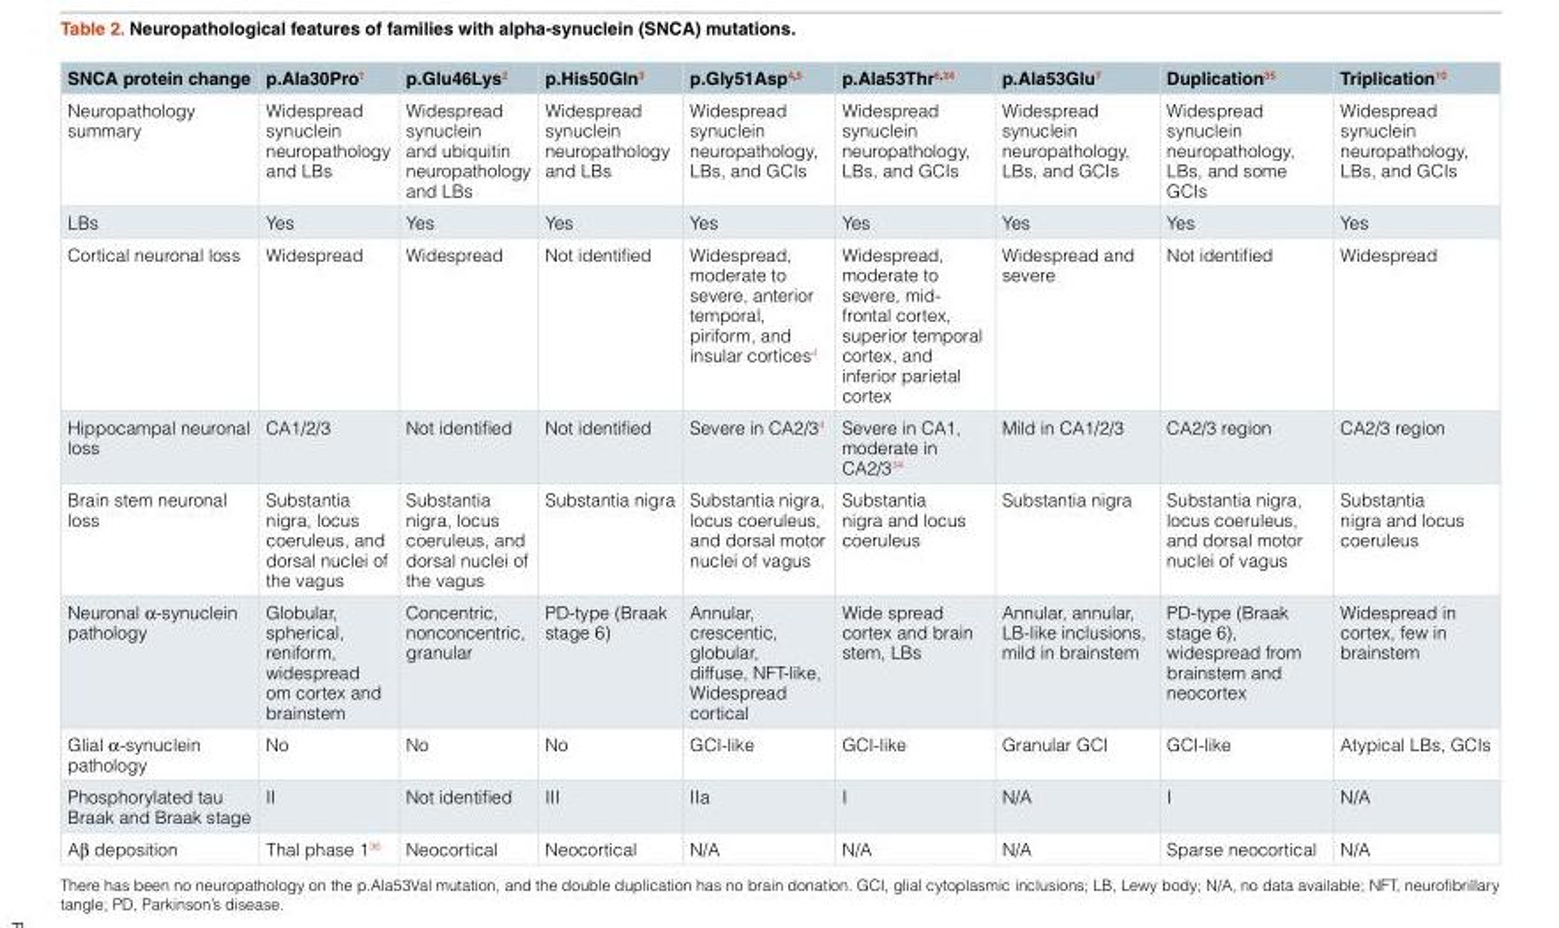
<table><thead><tr><td>SNCA protein change</td><td>p.Ala30Pro<sup>1</sup></td><td>p.Glu46Lys<sup>2</sup></td><td>p.His50Gln<sup>3</sup></td><td>p.Gly51Asp<sup>4,5</sup></td><td>p.Ala53Thr<sup>6,34</sup></td><td>p.Ala53Glu<sup>7</sup></td><td>Duplication<sup>35</sup></td><td>Triplication<sup>10</sup></td></tr></thead><tbody><tr><td>Neuropathology summary</td><td>Widespread synuclein neuropathology and LBs</td><td>Widespread synuclein and ubiquitin neuropathology and LBs</td><td>Widespread synuclein neuropathology and LBs</td><td>Widespread synuclein neuropathology, LBs, and GCIs</td><td>Widespread synuclein neuropathology, LBs, and GCIs</td><td>Widespread synuclein neuropathology, LBs, and GCIs</td><td>Widespread synuclein neuropathology, LBs, and some GCIs</td><td>Widespread synuclein neuropathology, LBs, and GCIs</td></tr><tr><td>LBs</td><td>Yes</td><td>Yes</td><td>Yes</td><td>Yes</td><td>Yes</td><td>Yes</td><td>Yes</td><td>Yes</td></tr><tr><td>Cortical neuronal loss</td><td>Widespread</td><td>Widespread</td><td>Not identified</td><td>Widespread, moderate to severe, anterior temporal, piriform, and insular cortices<sup>4</sup></td><td>Widespread, moderate to severe, mid- frontal cortex, superior temporal cortex, and inferior parietal cortex</td><td>Widespread and severe</td><td>Not identified</td><td>Widespread</td></tr><tr><td>Hippocampal neuronal loss</td><td>CA1/2/3</td><td>Not identified</td><td>Not identified</td><td>Severe in CA2/3<sup>4</sup></td><td>Severe in CA1, moderate in CA2/3<sup>34</sup></td><td>Mild in CA1/2/3</td><td>CA2/3 region</td><td>CA2/3 region</td></tr><tr><td>Brain stem neuronal loss</td><td>Substantia nigra, locus coeruleus, and dorsal nuclei of the vagus</td><td>Substantia nigra, locus coeruleus, and dorsal nuclei of the vagus</td><td>Substantia nigra</td><td>Substantia nigra, locus coeruleus, and dorsal motor nuclei of vagus</td><td>Substantia nigra and locus coeruleus</td><td>Substantia nigra</td><td>Substantia nigra, locus coeruleus, and dorsal motor nuclei of vagus</td><td>Substantia nigra and locus coeruleus</td></tr><tr><td>Neuronal α-synuclein pathology</td><td>Globular, spherical, reniform, widespread om cortex and brainstem</td><td>Concentric, nonconcentric, granular</td><td>PD-type (Braak stage 6)</td><td>Annular, crescentic, globular, diffuse, NFT-like, Widespread cortical</td><td>Wide spread cortex and brain stem, LBs</td><td>Annular, annular, LB-like inclusions, mild in brainstem</td><td>PD-type (Braak stage 6), widespread from brainstem and neocortex</td><td>Widespread in cortex, few in brainstem</td></tr><tr><td>Glial α-synuclein pathology</td><td>No</td><td>No</td><td>No</td><td>GCI-like</td><td>GCI-like</td><td>Granular GCI</td><td>GCI-like</td><td>Atypical LBs, GCIs</td></tr><tr><td>Phosphorylated tau Braak and Braak stage</td><td>II</td><td>Not identified</td><td>III</td><td>IIa</td><td>I</td><td>N/A</td><td>I</td><td>N/A</td></tr><tr><td>Aβ deposition</td><td>Thal phase 1<sup>36</sup></td><td>Neocortical</td><td>Neocortical</td><td>N/A</td><td>N/A</td><td>N/A</td><td>Sparse neocortical</td><td>N/A</td></tr></tbody></table>